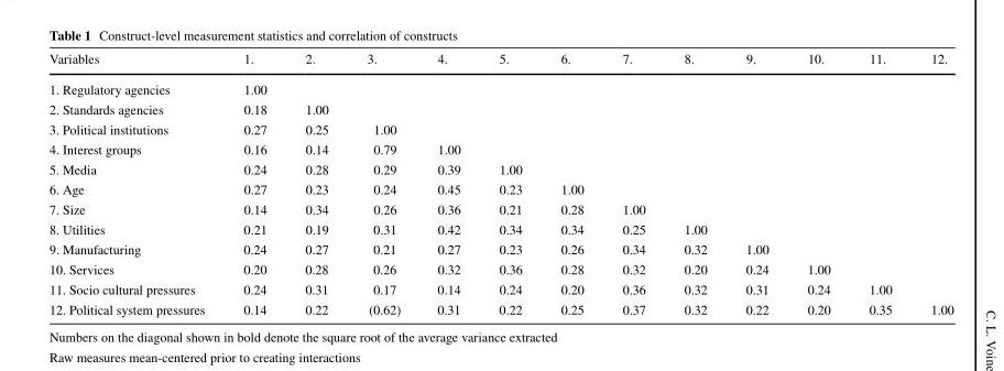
<table><thead><tr><td>Variables</td><td>1.</td><td>2.</td><td>3.</td><td>4.</td><td>5.</td><td>6.</td><td>7.</td><td>8.</td><td>9.</td><td>10.</td><td>11.</td><td>12.</td></tr></thead><tbody><tr><td>1. Regulatory agencies</td><td>1.00</td><td></td><td></td><td></td><td></td><td></td><td></td><td></td><td></td><td></td><td></td><td></td></tr><tr><td>2. Standards agencies</td><td>0.18</td><td>1.00</td><td></td><td></td><td></td><td></td><td></td><td></td><td></td><td></td><td></td><td></td></tr><tr><td>3. Political institutions</td><td>0.27</td><td>0.25</td><td>1.00</td><td></td><td></td><td></td><td></td><td></td><td></td><td></td><td></td><td></td></tr><tr><td>4. Interest groups</td><td>0.16</td><td>0.14</td><td>0.79</td><td>1.00</td><td></td><td></td><td></td><td></td><td></td><td></td><td></td><td></td></tr><tr><td>5. Media</td><td>0.24</td><td>0.28</td><td>0.29</td><td>0.39</td><td>1.00</td><td></td><td></td><td></td><td></td><td></td><td></td><td></td></tr><tr><td>6. Age</td><td>0.27</td><td>0.23</td><td>0.24</td><td>0.45</td><td>0.23</td><td>1.00</td><td></td><td></td><td></td><td></td><td></td><td></td></tr><tr><td>7. Size</td><td>0.14</td><td>0.34</td><td>0.26</td><td>0.36</td><td>0.21</td><td>0.28</td><td>1.00</td><td></td><td></td><td></td><td></td><td></td></tr><tr><td>8. Utilities</td><td>0.21</td><td>0.19</td><td>0.31</td><td>0.42</td><td>0.34</td><td>0.34</td><td>0.25</td><td>1.00</td><td></td><td></td><td></td><td></td></tr><tr><td>9. Manufacturing</td><td>0.24</td><td>0.27</td><td>0.21</td><td>0.27</td><td>0.23</td><td>0.26</td><td>0.34</td><td>0.32</td><td>1.00</td><td></td><td></td><td></td></tr><tr><td>10. Services</td><td>0.20</td><td>0.28</td><td>0.26</td><td>0.32</td><td>0.36</td><td>0.28</td><td>0.32</td><td>0.20</td><td>0.24</td><td>1.00</td><td></td><td></td></tr><tr><td>11. Socio cultural pressures</td><td>0.24</td><td>0.31</td><td>0.17</td><td>0.14</td><td>0.24</td><td>0.20</td><td>0.36</td><td>0.32</td><td>0.31</td><td>0.24</td><td>1.00</td><td></td></tr><tr><td>12. Political system pressures</td><td>0.14</td><td>0.22</td><td>(0.62)</td><td>0.31</td><td>0.22</td><td>0.25</td><td>0.37</td><td>0.32</td><td>0.22</td><td>0.20</td><td>0.35</td><td>1.00</td></tr></tbody></table>